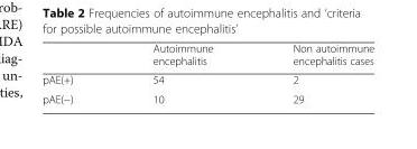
<table><thead><tr><td></td><td>Autoimmune encephalitis</td><td>Non autoimmune encephalitis cases</td></tr></thead><tbody><tr><td>pAE(+)</td><td>54</td><td>2</td></tr><tr><td>pAE(−)</td><td>10</td><td>29</td></tr></tbody></table>